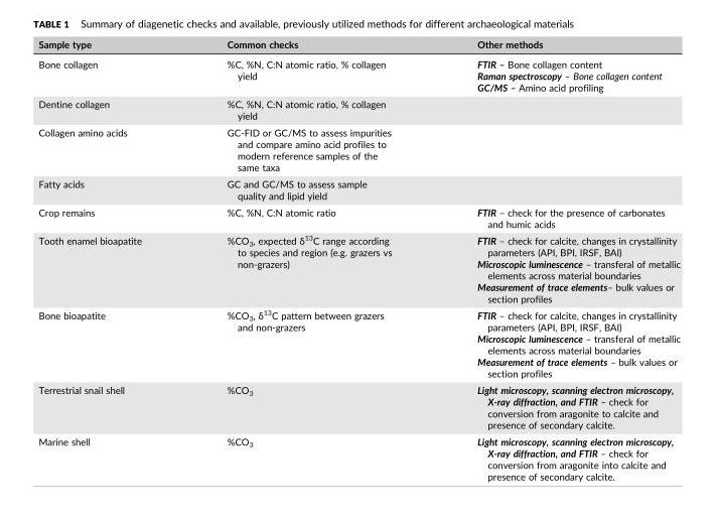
<table><thead><tr><td>Sample type</td><td>Common checks</td><td>Other methods</td></tr></thead><tbody><tr><td>Bone collagen</td><td>%C, %N, C:N atomic ratio, % collagen yield</td><td>FTIR – Bone collagen content Raman spectroscopy – Bone collagen content GC/MS – Amino acid profiling</td></tr><tr><td>Dentine collagen</td><td>%C, %N, C:N atomic ratio, % collagen yield</td><td></td></tr><tr><td>Collagen amino acids</td><td>GC‐FID or GC/MS to assess impurities and compare amino acid profiles to modern reference samples of the same taxa</td><td></td></tr><tr><td>Fatty acids</td><td>GC and GC/MS to assess sample quality and lipid yield</td><td></td></tr><tr><td>Crop remains</td><td>%C, %N, C:N atomic ratio</td><td>FTIR – check for the presence of carbonates and humic acids</td></tr><tr><td>Tooth enamel bioapatite</td><td>%CO<sub>3</sub>, expected δ<sup>13</sup>C range according to species and region (e.g. grazers vs non‐grazers)</td><td>FTIR – check for calcite, changes in crystallinity parameters (API, BPI, IRSF, BAI) Microscopic luminescence – transferal of metallic elements across material boundaries Measurement of trace elements– bulk values or section profiles</td></tr><tr><td>Bone bioapatite</td><td>%CO<sub>3</sub>, δ<sup>13</sup>C pattern between grazers and non‐grazers</td><td>FTIR – check for calcite, changes in crystallinity parameters (API, BPI, IRSF, BAI) Microscopic luminescence – transferal of metallic elements across material boundaries Measurement of trace elements – bulk values or section profiles</td></tr><tr><td>Terrestrial snail shell</td><td>%CO<sub>3</sub></td><td>Light microscopy, scanning electron microscopy, X‐ray diffraction, and FTIR – check for conversion from aragonite to calcite and presence of secondary calcite.</td></tr><tr><td>Marine shell</td><td>%CO<sub>3</sub></td><td>Light microscopy, scanning electron microscopy, X‐ray diffraction, and FTIR – check for conversion from aragonite into calcite and presence of secondary calcite.</td></tr></tbody></table>